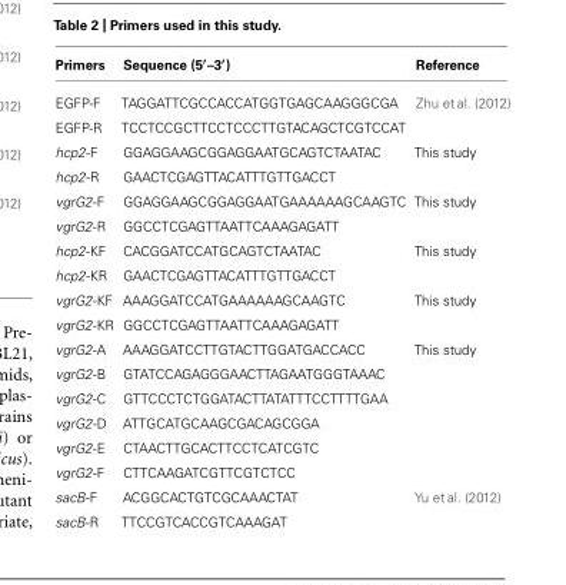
<table><thead><tr><td>Primers</td><td>Sequence (5<sup>′</sup>–3<sup>′</sup>)</td><td>Reference</td></tr></thead><tbody><tr><td>EGFP-F</td><td>TAGGATTCGCCACCATGGTGAGCAAGGGCGA</td><td>Zhu et al. (2012)</td></tr><tr><td>EGFP-R</td><td>TCCTCCGCTTCCTCCCTTGTACAGCTCGTCCAT</td><td></td></tr><tr><td>hcp2-F</td><td>GGAGGAAGCGGAGGAATGCAGTCTAATAC</td><td>This study</td></tr><tr><td>hcp2-R</td><td>GAACTCGAGTTACATTTGTTGACCT</td><td></td></tr><tr><td>vgrG2-F</td><td>GGAGGAAGCGGAGGAATGAAAAAAGCAAGTC</td><td>This study</td></tr><tr><td>vgrG2-R</td><td>GGCCTCGAGTTAATTCAAAGAGATT</td><td></td></tr><tr><td>hcp2-KF</td><td>CACGGATCCATGCAGTCTAATAC</td><td>This study</td></tr><tr><td>hcp2-KR</td><td>GAACTCGAGTTACATTTGTTGACCT</td><td></td></tr><tr><td>vgrG2-KF</td><td>AAAGGATCCATGAAAAAAGCAAGTC</td><td>This study</td></tr><tr><td>vgrG2-KR</td><td>GGCCTCGAGTTAATTCAAAGAGATT</td><td></td></tr><tr><td>vgrG2-A</td><td>AAAGGATCCTTGTACTTGGATGACCACC</td><td>This study</td></tr><tr><td>vgrG2-B</td><td>GTATCCAGAGGGAACTTAGAATGGGTAAAC</td><td></td></tr><tr><td>vgrG2-C</td><td>GTTCCCTCTGGATACTTATATTTCCTTTTGAA</td><td></td></tr><tr><td>vgrG2-D</td><td>ATTGCATGCAAGCGACAGCGGA</td><td></td></tr><tr><td>vgrG2-E</td><td>CTAACTTGCACTTCCTCATCGTC</td><td></td></tr><tr><td>vgrG2-F</td><td>CTTCAAGATCGTTCGTCTCC</td><td></td></tr><tr><td>sacB-F</td><td>ACGGCACTGTCGCAAACTAT</td><td>Yu et al. (2012)</td></tr><tr><td>sacB-R</td><td>TTCCGTCACCGTCAAAGAT</td><td></td></tr></tbody></table>